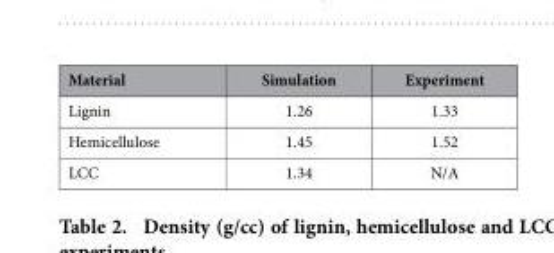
<table><thead><tr><td>Material</td><td>Simulation</td><td>Experiment</td></tr></thead><tbody><tr><td>Lignin</td><td>1.26</td><td>1.33</td></tr><tr><td>Hemicellulose</td><td>1.45</td><td>1.52</td></tr><tr><td>LCC</td><td>1.34</td><td>N/A</td></tr></tbody></table>